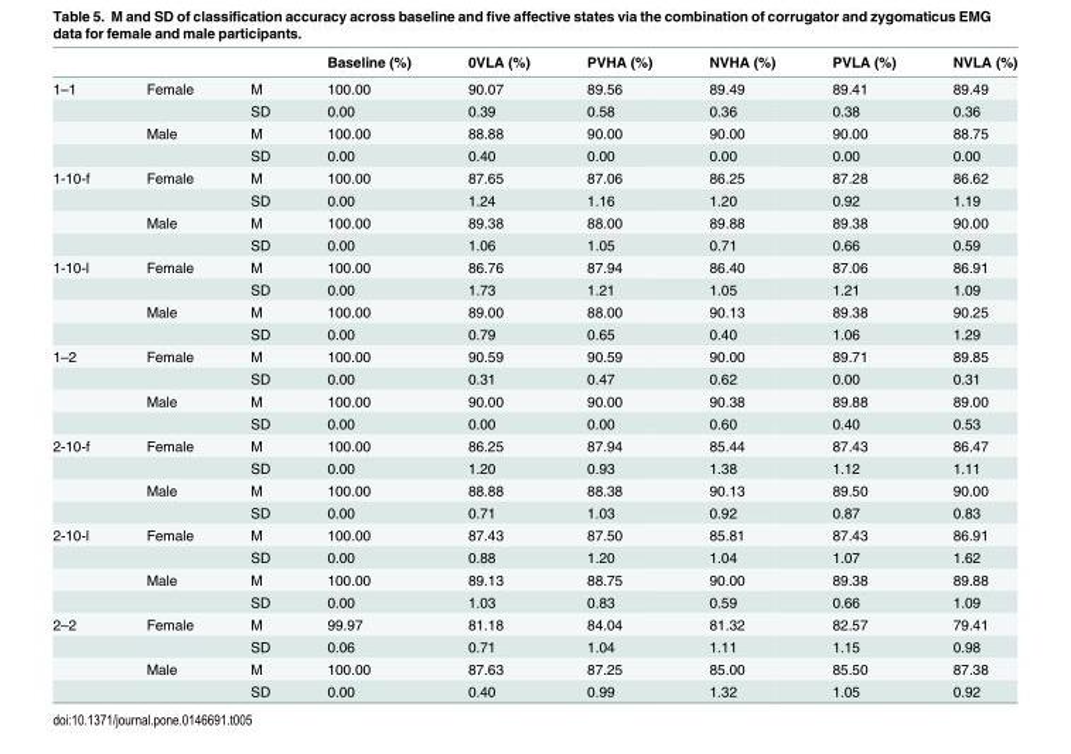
<table><thead><tr><td></td><td></td><td></td><td>Baseline (%)</td><td>0VLA (%)</td><td>PVHA (%)</td><td>NVHA (%)</td><td>PVLA (%)</td><td>NVLA (%)</td></tr></thead><tbody><tr><td rowspan="4">1–1</td><td>Female</td><td>M</td><td>100.00</td><td>90.07</td><td>89.56</td><td>89.49</td><td>89.41</td><td>89.49</td></tr><tr><td></td><td>SD</td><td>0.00</td><td>0.39</td><td>0.58</td><td>0.36</td><td>0.38</td><td>0.36</td></tr><tr><td>Male</td><td>M</td><td>100.00</td><td>88.88</td><td>90.00</td><td>90.00</td><td>90.00</td><td>88.75</td></tr><tr><td></td><td>SD</td><td>0.00</td><td>0.40</td><td>0.00</td><td>0.00</td><td>0.00</td><td>0.00</td></tr><tr><td rowspan="4">1-10-f</td><td>Female</td><td>M</td><td>100.00</td><td>87.65</td><td>87.06</td><td>86.25</td><td>87.28</td><td>86.62</td></tr><tr><td></td><td>SD</td><td>0.00</td><td>1.24</td><td>1.16</td><td>1.20</td><td>0.92</td><td>1.19</td></tr><tr><td>Male</td><td>M</td><td>100.00</td><td>89.38</td><td>88.00</td><td>89.88</td><td>89.38</td><td>90.00</td></tr><tr><td></td><td>SD</td><td>0.00</td><td>1.06</td><td>1.05</td><td>0.71</td><td>0.66</td><td>0.59</td></tr><tr><td rowspan="4">1-10-l</td><td>Female</td><td>M</td><td>100.00</td><td>86.76</td><td>87.94</td><td>86.40</td><td>87.06</td><td>86.91</td></tr><tr><td></td><td>SD</td><td>0.00</td><td>1.73</td><td>1.21</td><td>1.05</td><td>1.21</td><td>1.09</td></tr><tr><td>Male</td><td>M</td><td>100.00</td><td>89.00</td><td>88.00</td><td>90.13</td><td>89.38</td><td>90.25</td></tr><tr><td></td><td>SD</td><td>0.00</td><td>0.79</td><td>0.65</td><td>0.40</td><td>1.06</td><td>1.29</td></tr><tr><td rowspan="4">1–2</td><td>Female</td><td>M</td><td>100.00</td><td>90.59</td><td>90.59</td><td>90.00</td><td>89.71</td><td>89.85</td></tr><tr><td></td><td>SD</td><td>0.00</td><td>0.31</td><td>0.47</td><td>0.62</td><td>0.00</td><td>0.31</td></tr><tr><td>Male</td><td>M</td><td>100.00</td><td>90.00</td><td>90.00</td><td>90.38</td><td>89.88</td><td>89.00</td></tr><tr><td></td><td>SD</td><td>0.00</td><td>0.00</td><td>0.00</td><td>0.60</td><td>0.40</td><td>0.53</td></tr><tr><td rowspan="4">2-10-f</td><td>Female</td><td>M</td><td>100.00</td><td>86.25</td><td>87.94</td><td>85.44</td><td>87.43</td><td>86.47</td></tr><tr><td></td><td>SD</td><td>0.00</td><td>1.20</td><td>0.93</td><td>1.38</td><td>1.12</td><td>1.11</td></tr><tr><td>Male</td><td>M</td><td>100.00</td><td>88.88</td><td>88.38</td><td>90.13</td><td>89.50</td><td>90.00</td></tr><tr><td></td><td>SD</td><td>0.00</td><td>0.71</td><td>1.03</td><td>0.92</td><td>0.87</td><td>0.83</td></tr><tr><td rowspan="4">2-10-l</td><td>Female</td><td>M</td><td>100.00</td><td>87.43</td><td>87.50</td><td>85.81</td><td>87.43</td><td>86.91</td></tr><tr><td></td><td>SD</td><td>0.00</td><td>0.88</td><td>1.20</td><td>1.04</td><td>1.07</td><td>1.62</td></tr><tr><td>Male</td><td>M</td><td>100.00</td><td>89.13</td><td>88.75</td><td>90.00</td><td>89.38</td><td>89.88</td></tr><tr><td></td><td>SD</td><td>0.00</td><td>1.03</td><td>0.83</td><td>0.59</td><td>0.66</td><td>1.09</td></tr><tr><td rowspan="4">2–2</td><td>Female</td><td>M</td><td>99.97</td><td>81.18</td><td>84.04</td><td>81.32</td><td>82.57</td><td>79.41</td></tr><tr><td></td><td>SD</td><td>0.06</td><td>0.71</td><td>1.04</td><td>1.11</td><td>1.15</td><td>0.98</td></tr><tr><td>Male</td><td>M</td><td>100.00</td><td>87.63</td><td>87.25</td><td>85.00</td><td>85.50</td><td>87.38</td></tr><tr><td></td><td>SD</td><td>0.00</td><td>0.40</td><td>0.99</td><td>1.32</td><td>1.05</td><td>0.92</td></tr></tbody></table>